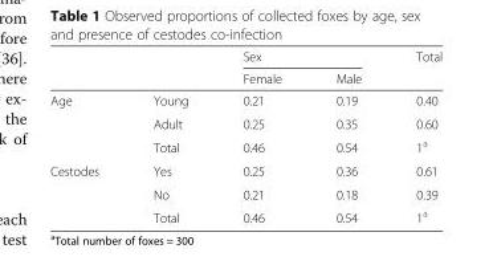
<table><thead><tr><td rowspan="2"></td><td rowspan="2"></td><td colspan="2">Sex</td><td rowspan="2">Total</td></tr><tr><td>Female</td><td>Male</td></tr></thead><tbody><tr><td rowspan="3">Age</td><td>Young</td><td>0.21</td><td>0.19</td><td>0.40</td></tr><tr><td>Adult</td><td>0.25</td><td>0.35</td><td>0.60</td></tr><tr><td>Total</td><td>0.46</td><td>0.54</td><td>1<sup>a</sup></td></tr><tr><td rowspan="3">Cestodes</td><td>Yes</td><td>0.25</td><td>0.36</td><td>0.61</td></tr><tr><td>No</td><td>0.21</td><td>0.18</td><td>0.39</td></tr><tr><td>Total</td><td>0.46</td><td>0.54</td><td>1<sup>a</sup></td></tr></tbody></table>